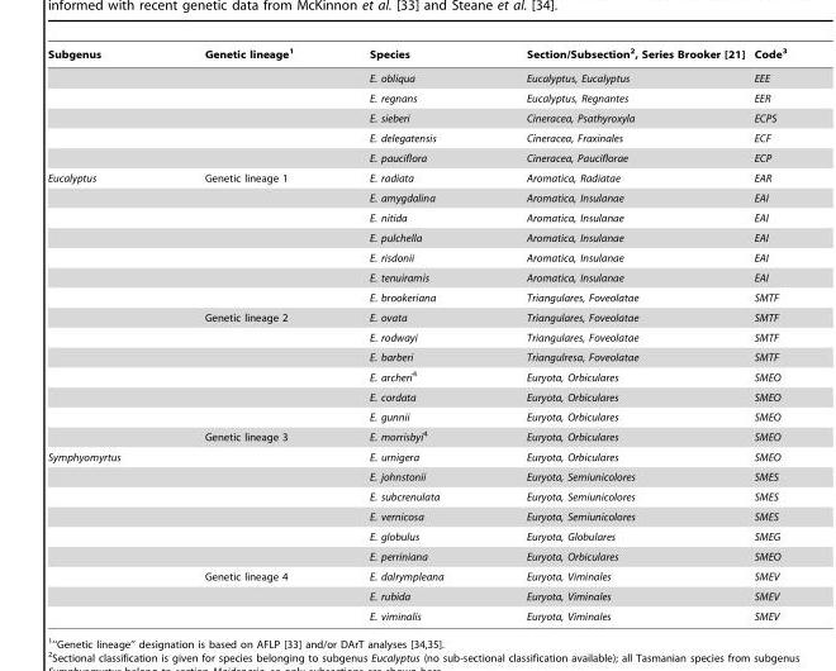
<table><thead><tr><td>Subgenus</td><td>Genetic lineage<sup>1</sup></td><td>Species</td><td>Section/Subsection<sup>2</sup>, Series Brooker [21]</td><td>Code<sup>3</sup></td></tr></thead><tbody><tr><td></td><td></td><td>E. obliqua</td><td>Eucalyptus, Eucalyptus</td><td>EEE</td></tr><tr><td></td><td></td><td>E. regnans</td><td>Eucalyptus, Regnantes</td><td>EER</td></tr><tr><td></td><td></td><td>E. sieberi</td><td>Cineracea, Psathyroxyla</td><td>ECPS</td></tr><tr><td></td><td></td><td>E. delegatensis</td><td>Cineracea, Fraxinales</td><td>ECF</td></tr><tr><td></td><td></td><td>E. pauciflora</td><td>Cineracea, Pauciflorae</td><td>ECP</td></tr><tr><td rowspan="14">Eucalyptus</td><td>Genetic lineage 1</td><td>E. radiata</td><td>Aromatica, Radiatae</td><td>EAR</td></tr><tr><td></td><td>E. amygdalina</td><td>Aromatica, Insulanae</td><td>EAI</td></tr><tr><td></td><td>E. nitida</td><td>Aromatica, Insulanae</td><td>EAI</td></tr><tr><td></td><td>E. pulchella</td><td>Aromatica, Insulanae</td><td>EAI</td></tr><tr><td></td><td>E. risdonii</td><td>Aromatica, Insulanae</td><td>EAI</td></tr><tr><td></td><td>E. tenuiramis</td><td>Aromatica, Insulanae</td><td>EAI</td></tr><tr><td></td><td>E. brookeriana</td><td>Triangulares, Foveolatae</td><td>SMTF</td></tr><tr><td>Genetic lineage 2</td><td>E. ovata</td><td>Triangulares, Foveolatae</td><td>SMTF</td></tr><tr><td></td><td>E. rodwayi</td><td>Triangulares, Foveolatae</td><td>SMTF</td></tr><tr><td></td><td>E. barberi</td><td>Triangulresa, Foveolatae</td><td>SMTF</td></tr><tr><td></td><td>E. archeri4</td><td>Euryota, Orbiculares</td><td>SMEO</td></tr><tr><td></td><td>E. cordata</td><td>Euryota, Orbiculares</td><td>SMEO</td></tr><tr><td></td><td>E. gunnii</td><td>Euryota, Orbiculares</td><td>SMEO</td></tr><tr><td>Genetic lineage 3</td><td>E. morrisbyi4</td><td>Euryota, Orbiculares</td><td>SMEO</td></tr><tr><td rowspan="9">Symphyomyrtus</td><td></td><td>E. urnigera</td><td>Euryota, Orbiculares</td><td>SMEO</td></tr><tr><td></td><td>E. johnstonii</td><td>Euryota, Semiunicolores</td><td>SMES</td></tr><tr><td></td><td>E. subcrenulata</td><td>Euryota, Semiunicolores</td><td>SMES</td></tr><tr><td></td><td>E. vernicosa</td><td>Euryota, Semiunicolores</td><td>SMES</td></tr><tr><td></td><td>E. globulus</td><td>Euryota, Globulares</td><td>SMEG</td></tr><tr><td></td><td>E. perriniana</td><td>Euryota, Orbiculares</td><td>SMEO</td></tr><tr><td>Genetic lineage 4</td><td>E. dalrympleana</td><td>Euryota, Viminales</td><td>SMEV</td></tr><tr><td></td><td>E. rubida</td><td>Euryota, Viminales</td><td>SMEV</td></tr><tr><td></td><td>E. viminalis</td><td>Euryota, Viminales</td><td>SMEV</td></tr></tbody></table>